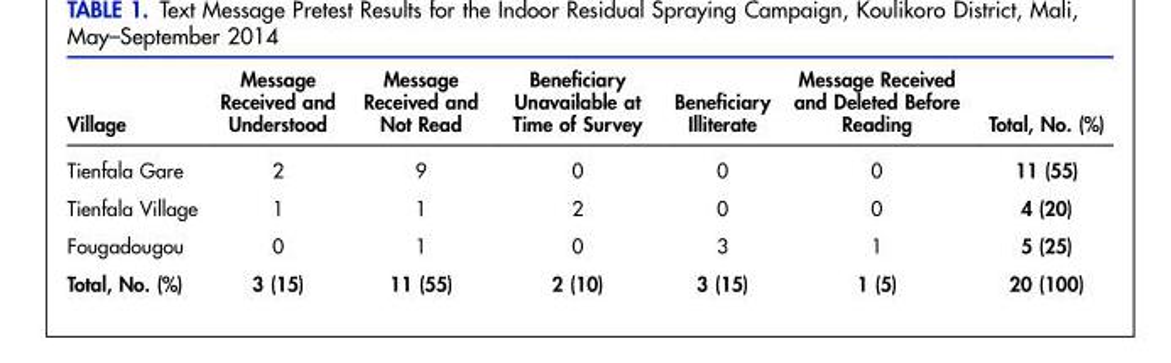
<table><thead><tr><td>Village</td><td>Message Received and Understood</td><td>Message Received and Not Read</td><td>Beneficiary Unavailable at Time of Survey</td><td>Beneficiary Illiterate</td><td>Message Received and Deleted Before Reading</td><td>Total, No. (%)</td></tr></thead><tbody><tr><td>Tienfala Gare</td><td>2</td><td>9</td><td>0</td><td>0</td><td>0</td><td>11 (55)</td></tr><tr><td>Tienfala Village</td><td>1</td><td>1</td><td>2</td><td>0</td><td>0</td><td>4 (20)</td></tr><tr><td>Fougadougou</td><td>0</td><td>1</td><td>0</td><td>3</td><td>1</td><td>5 (25)</td></tr><tr><td>Total, No. (%)</td><td>3 (15)</td><td>11 (55)</td><td>2 (10)</td><td>3 (15)</td><td>1 (5)</td><td>20 (100)</td></tr></tbody></table>